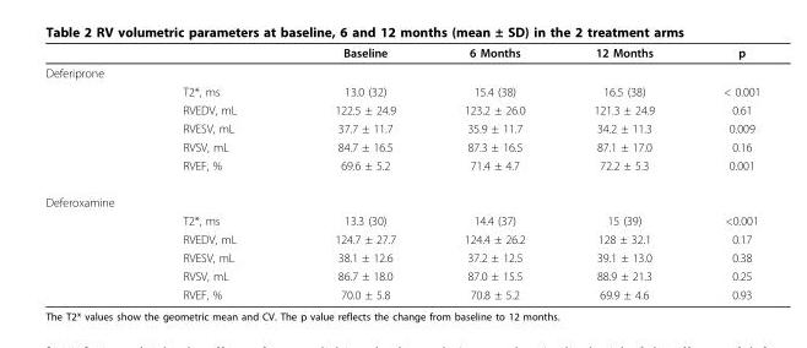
<table><thead><tr><td></td><td></td><td>Baseline</td><td>6 Months</td><td>12 Months</td><td>p</td></tr></thead><tbody><tr><td colspan="6">Deferiprone</td></tr><tr><td></td><td>T2*, ms</td><td>13.0 (32)</td><td>15.4 (38)</td><td>16.5 (38)</td><td>&lt; 0.001</td></tr><tr><td></td><td>RVEDV, mL</td><td>122.5 ± 24.9</td><td>123.2 ± 26.0</td><td>121.3 ± 24.9</td><td>0.61</td></tr><tr><td></td><td>RVESV, mL</td><td>37.7 ± 11.7</td><td>35.9 ± 11.7</td><td>34.2 ± 11.3</td><td>0.009</td></tr><tr><td></td><td>RVSV, mL</td><td>84.7 ± 16.5</td><td>87.3 ± 16.5</td><td>87.1 ± 17.0</td><td>0.16</td></tr><tr><td></td><td>RVEF, %</td><td>69.6 ± 5.2</td><td>71.4 ± 4.7</td><td>72.2 ± 5.3</td><td>0.001</td></tr><tr><td colspan="6">Deferoxamine</td></tr><tr><td></td><td>T2*, ms</td><td>13.3 (30)</td><td>14.4 (37)</td><td>15 (39)</td><td>&lt;0.001</td></tr><tr><td></td><td>RVEDV, mL</td><td>124.7 ± 27.7</td><td>124.4 ± 26.2</td><td>128 ± 32.1</td><td>0.17</td></tr><tr><td></td><td>RVESV, mL</td><td>38.1 ± 12.6</td><td>37.2 ± 12.5</td><td>39.1 ± 13.0</td><td>0.38</td></tr><tr><td></td><td>RVSV, mL</td><td>86.7 ± 18.0</td><td>87.0 ± 15.5</td><td>88.9 ± 21.3</td><td>0.25</td></tr><tr><td></td><td>RVEF, %</td><td>70.0 ± 5.8</td><td>70.8 ± 5.2</td><td>69.9 ± 4.6</td><td>0.93</td></tr></tbody></table>